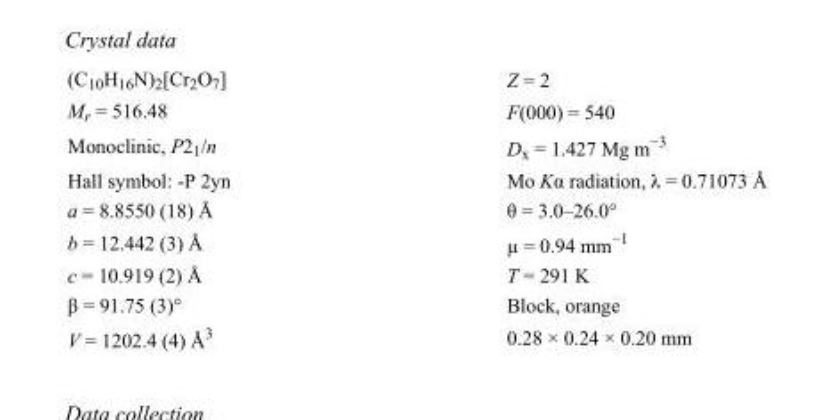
<table><tbody><tr><td>(C<sub>10</sub>H<sub>16</sub>N)<sub>2</sub>[Cr<sub>2</sub>O<sub>7</sub>]</td><td>Z = 2</td></tr><tr><td>M<sub>r</sub> = 516.48</td><td>F(000) = 540</td></tr><tr><td>Monoclinic, P2<sub>1</sub>/n</td><td>D<sub>x</sub> = 1.427 Mg m<sup>−3</sup></td></tr><tr><td>Hall symbol: -P 2yn</td><td>Mo Kα radiation, λ = 0.71073 Å</td></tr><tr><td>a = 8.8550 (18) Å</td><td>θ = 3.0–26.0°</td></tr><tr><td>b = 12.442 (3) Å</td><td>µ = 0.94 mm<sup>−1</sup></td></tr><tr><td>c = 10.919 (2) Å</td><td>T = 291 K</td></tr><tr><td>β = 91.75 (3)°</td><td>Block, orange</td></tr><tr><td>V = 1202.4 (4) Å<sup>3</sup></td><td>0.28 × 0.24 × 0.20 mm</td></tr></tbody></table>